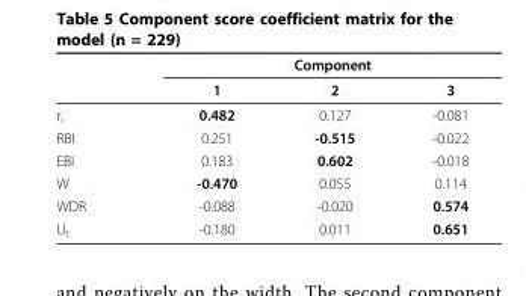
<table><thead><tr><td rowspan="2"></td><td colspan="3">Component</td></tr><tr><td>1</td><td>2</td><td>3</td></tr></thead><tbody><tr><td>r<sub>i</sub></td><td>0.482</td><td>0.127</td><td>-0.081</td></tr><tr><td>RBI</td><td>0.251</td><td>-0.515</td><td>-0.022</td></tr><tr><td>EBI</td><td>0.183</td><td>0.602</td><td>-0.018</td></tr><tr><td>W</td><td>-0.470</td><td>0.055</td><td>0.114</td></tr><tr><td>WDR</td><td>-0.088</td><td>-0.020</td><td>0.574</td></tr><tr><td>U<sub>t</sub></td><td>-0.180</td><td>0.011</td><td>0.651</td></tr></tbody></table>